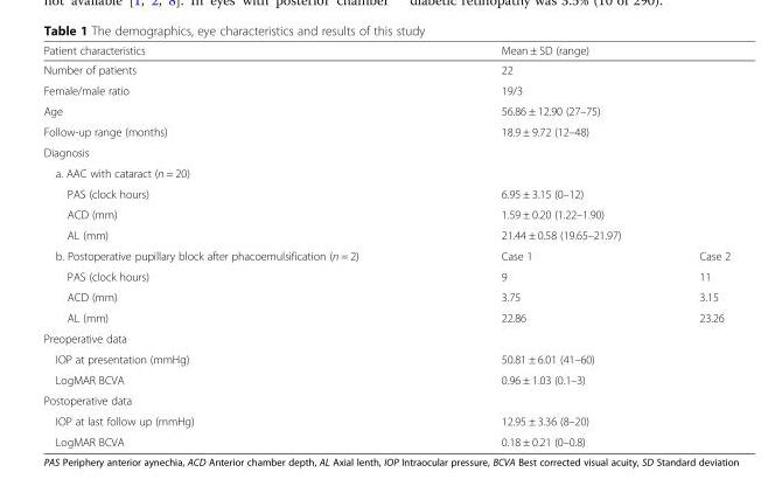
<table><thead><tr><td>Patient characteristics</td><td colspan="2">Mean ± SD (range)</td></tr></thead><tbody><tr><td>Number of patients</td><td colspan="2">22</td></tr><tr><td>Female/male ratio</td><td colspan="2">19/3</td></tr><tr><td>Age</td><td colspan="2">56.86 ± 12.90 (27–75)</td></tr><tr><td>Follow-up range (months)</td><td colspan="2">18.9 ± 9.72 (12–48)</td></tr><tr><td colspan="3">Diagnosis</td></tr><tr><td colspan="3">a. AAC with cataract (n = 20)</td></tr><tr><td>PAS (clock hours)</td><td colspan="2">6.95 ± 3.15 (0–12)</td></tr><tr><td>ACD (mm)</td><td colspan="2">1.59 ± 0.20 (1.22–1.90)</td></tr><tr><td>AL (mm)</td><td colspan="2">21.44 ± 0.58 (19.65–21.97)</td></tr><tr><td>b. Postoperative pupillary block after phacoemulsification (n = 2)</td><td>Case 1</td><td>Case 2</td></tr><tr><td>PAS (clock hours)</td><td>9</td><td>11</td></tr><tr><td>ACD (mm)</td><td>3.75</td><td>3.15</td></tr><tr><td>AL (mm)</td><td>22.86</td><td>23.26</td></tr><tr><td colspan="3">Preoperative data</td></tr><tr><td>IOP at presentation (mmHg)</td><td colspan="2">50.81 ± 6.01 (41–60)</td></tr><tr><td>LogMAR BCVA</td><td colspan="2">0.96 ± 1.03 (0.1–3)</td></tr><tr><td colspan="3">Postoperative data</td></tr><tr><td>IOP at last follow up (mmHg)</td><td colspan="2">12.95 ± 3.36 (8–20)</td></tr><tr><td>LogMAR BCVA</td><td colspan="2">0.18 ± 0.21 (0–0.8)</td></tr></tbody></table>